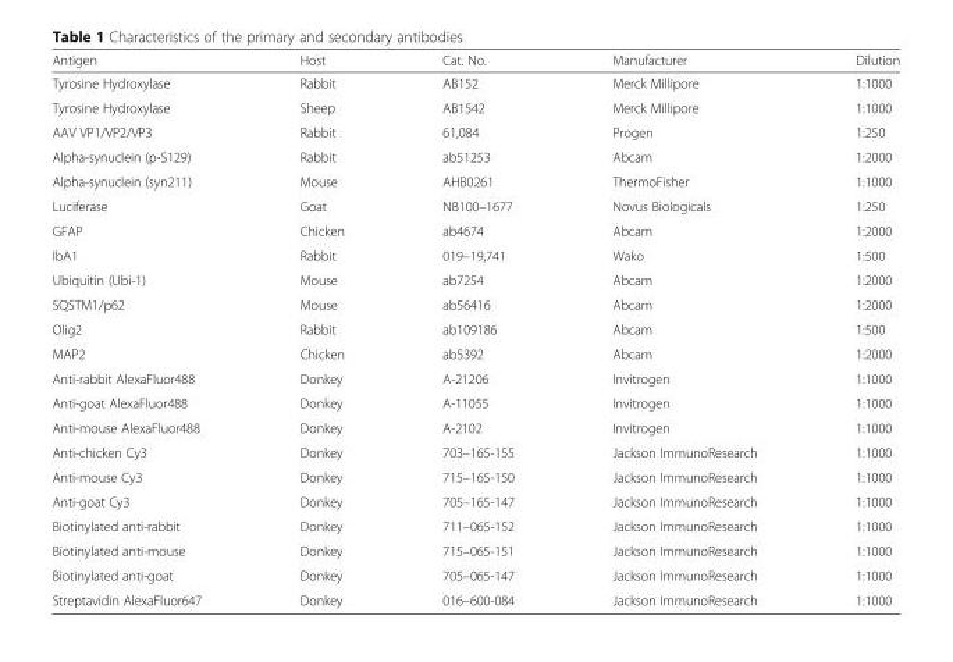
<table><thead><tr><td>Antigen</td><td>Host</td><td>Cat. No.</td><td>Manufacturer</td><td>Dilution</td></tr></thead><tbody><tr><td>Tyrosine Hydroxylase</td><td>Rabbit</td><td>AB152</td><td>Merck Millipore</td><td>1:1000</td></tr><tr><td>Tyrosine Hydroxylase</td><td>Sheep</td><td>AB1542</td><td>Merck Millipore</td><td>1:1000</td></tr><tr><td>AAV VP1/VP2/VP3</td><td>Rabbit</td><td>61,084</td><td>Progen</td><td>1:250</td></tr><tr><td>Alpha-synuclein (p-S129)</td><td>Rabbit</td><td>ab51253</td><td>Abcam</td><td>1:2000</td></tr><tr><td>Alpha-synuclein (syn211)</td><td>Mouse</td><td>AHB0261</td><td>ThermoFisher</td><td>1:1000</td></tr><tr><td>Luciferase</td><td>Goat</td><td>NB100–1677</td><td>Novus Biologicals</td><td>1:250</td></tr><tr><td>GFAP</td><td>Chicken</td><td>ab4674</td><td>Abcam</td><td>1:2000</td></tr><tr><td>IbA1</td><td>Rabbit</td><td>019–19,741</td><td>Wako</td><td>1:500</td></tr><tr><td>Ubiquitin (Ubi-1)</td><td>Mouse</td><td>ab7254</td><td>Abcam</td><td>1:2000</td></tr><tr><td>SQSTM1/p62</td><td>Mouse</td><td>ab56416</td><td>Abcam</td><td>1:2000</td></tr><tr><td>Olig2</td><td>Rabbit</td><td>ab109186</td><td>Abcam</td><td>1:500</td></tr><tr><td>MAP2</td><td>Chicken</td><td>ab5392</td><td>Abcam</td><td>1:2000</td></tr><tr><td>Anti-rabbit AlexaFluor488</td><td>Donkey</td><td>A-21206</td><td>Invitrogen</td><td>1:1000</td></tr><tr><td>Anti-goat AlexaFluor488</td><td>Donkey</td><td>A-11055</td><td>Invitrogen</td><td>1:1000</td></tr><tr><td>Anti-mouse AlexaFluor488</td><td>Donkey</td><td>A-2102</td><td>Invitrogen</td><td>1:1000</td></tr><tr><td>Anti-chicken Cy3</td><td>Donkey</td><td>703–165-155</td><td>Jackson ImmunoResearch</td><td>1:1000</td></tr><tr><td>Anti-mouse Cy3</td><td>Donkey</td><td>715–165-150</td><td>Jackson ImmunoResearch</td><td>1:1000</td></tr><tr><td>Anti-goat Cy3</td><td>Donkey</td><td>705–165-147</td><td>Jackson ImmunoResearch</td><td>1:1000</td></tr><tr><td>Biotinylated anti-rabbit</td><td>Donkey</td><td>711–065-152</td><td>Jackson ImmunoResearch</td><td>1:1000</td></tr><tr><td>Biotinylated anti-mouse</td><td>Donkey</td><td>715–065-151</td><td>Jackson ImmunoResearch</td><td>1:1000</td></tr><tr><td>Biotinylated anti-goat</td><td>Donkey</td><td>705–065-147</td><td>Jackson ImmunoResearch</td><td>1:1000</td></tr><tr><td>Streptavidin AlexaFluor647</td><td>Donkey</td><td>016–600-084</td><td>Jackson ImmunoResearch</td><td>1:1000</td></tr></tbody></table>